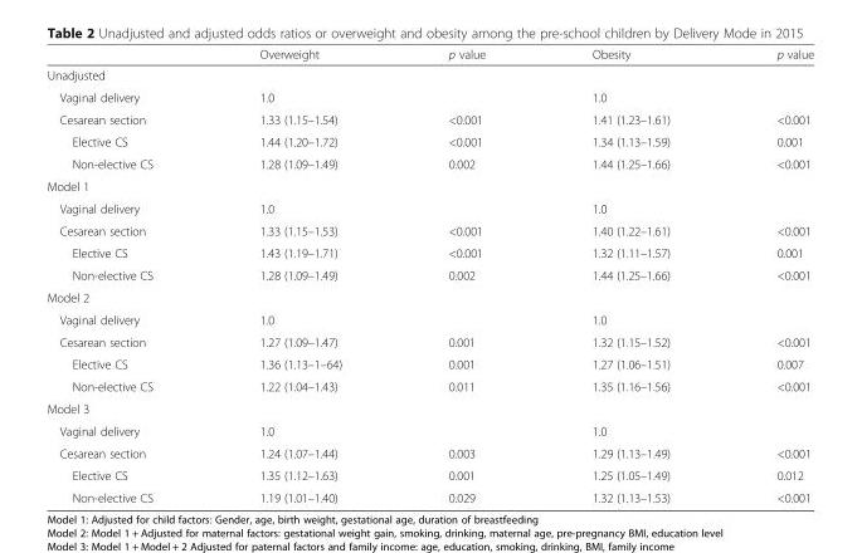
<table><thead><tr><td></td><td>Overweight</td><td>p value</td><td>Obesity</td><td>p value</td></tr></thead><tbody><tr><td colspan="5">Unadjusted</td></tr><tr><td>Vaginal delivery</td><td>1.0</td><td></td><td>1.0</td><td></td></tr><tr><td>Cesarean section</td><td>1.33 (1.15–1.54)</td><td>&lt;0.001</td><td>1.41 (1.23–1.61)</td><td>&lt;0.001</td></tr><tr><td>Elective CS</td><td>1.44 (1.20–1.72)</td><td>&lt;0.001</td><td>1.34 (1.13–1.59)</td><td>0.001</td></tr><tr><td>Non-elective CS</td><td>1.28 (1.09–1.49)</td><td>0.002</td><td>1.44 (1.25–1.66)</td><td>&lt;0.001</td></tr><tr><td colspan="5">Model 1</td></tr><tr><td>Vaginal delivery</td><td>1.0</td><td></td><td>1.0</td><td></td></tr><tr><td>Cesarean section</td><td>1.33 (1.15–1.53)</td><td>&lt;0.001</td><td>1.40 (1.22–1.61)</td><td>&lt;0.001</td></tr><tr><td>Elective CS</td><td>1.43 (1.19–1.71)</td><td>&lt;0.001</td><td>1.32 (1.11–1.57)</td><td>0.001</td></tr><tr><td>Non-elective CS</td><td>1.28 (1.09–1.49)</td><td>0.002</td><td>1.44 (1.25–1.66)</td><td>&lt;0.001</td></tr><tr><td colspan="5">Model 2</td></tr><tr><td>Vaginal delivery</td><td>1.0</td><td></td><td>1.0</td><td></td></tr><tr><td>Cesarean section</td><td>1.27 (1.09–1.47)</td><td>0.001</td><td>1.32 (1.15–1.52)</td><td>&lt;0.001</td></tr><tr><td>Elective CS</td><td>1.36 (1.13–1–64)</td><td>0.001</td><td>1.27 (1.06–1.51)</td><td>0.007</td></tr><tr><td>Non-elective CS</td><td>1.22 (1.04–1.43)</td><td>0.011</td><td>1.35 (1.16–1.56)</td><td>&lt;0.001</td></tr><tr><td colspan="5">Model 3</td></tr><tr><td>Vaginal delivery</td><td>1.0</td><td></td><td>1.0</td><td></td></tr><tr><td>Cesarean section</td><td>1.24 (1.07–1.44)</td><td>0.003</td><td>1.29 (1.13–1.49)</td><td>&lt;0.001</td></tr><tr><td>Elective CS</td><td>1.35 (1.12–1.63)</td><td>0.001</td><td>1.25 (1.05–1.49)</td><td>0.012</td></tr><tr><td>Non-elective CS</td><td>1.19 (1.01–1.40)</td><td>0.029</td><td>1.32 (1.13–1.53)</td><td>&lt;0.001</td></tr></tbody></table>